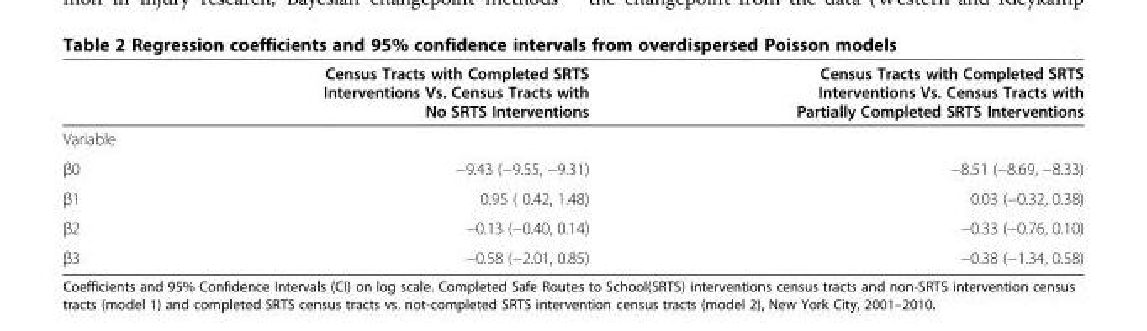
<table><thead><tr><td></td><td>Census Tracts with Completed SRTS Interventions Vs. Census Tracts with No SRTS Interventions</td><td>Census Tracts with Completed SRTS Interventions Vs. Census Tracts with Partially Completed SRTS Interventions</td></tr></thead><tbody><tr><td colspan="3">Variable</td></tr><tr><td>β0</td><td>−9.43 (−9.55, −9.31)</td><td>−8.51 (−8.69, −8.33)</td></tr><tr><td>β1</td><td>0.95 ( 0.42, 1.48)</td><td>0.03 (−0.32, 0.38)</td></tr><tr><td>β2</td><td>−0.13 (−0.40, 0.14)</td><td>−0.33 (−0.76, 0.10)</td></tr><tr><td>β3</td><td>−0.58 (−2.01, 0.85)</td><td>−0.38 (−1.34, 0.58)</td></tr></tbody></table>